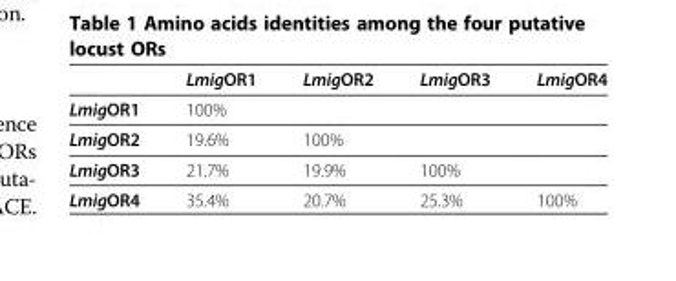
<table><thead><tr><td></td><td>LmigOR1</td><td>LmigOR2</td><td>LmigOR3</td><td>LmigOR4</td></tr></thead><tbody><tr><td>LmigOR1</td><td>100%</td><td></td><td></td><td></td></tr><tr><td>LmigOR2</td><td>19.6%</td><td>100%</td><td></td><td></td></tr><tr><td>LmigOR3</td><td>21.7%</td><td>19.9%</td><td>100%</td><td></td></tr><tr><td>LmigOR4</td><td>35.4%</td><td>20.7%</td><td>25.3%</td><td>100%</td></tr></tbody></table>